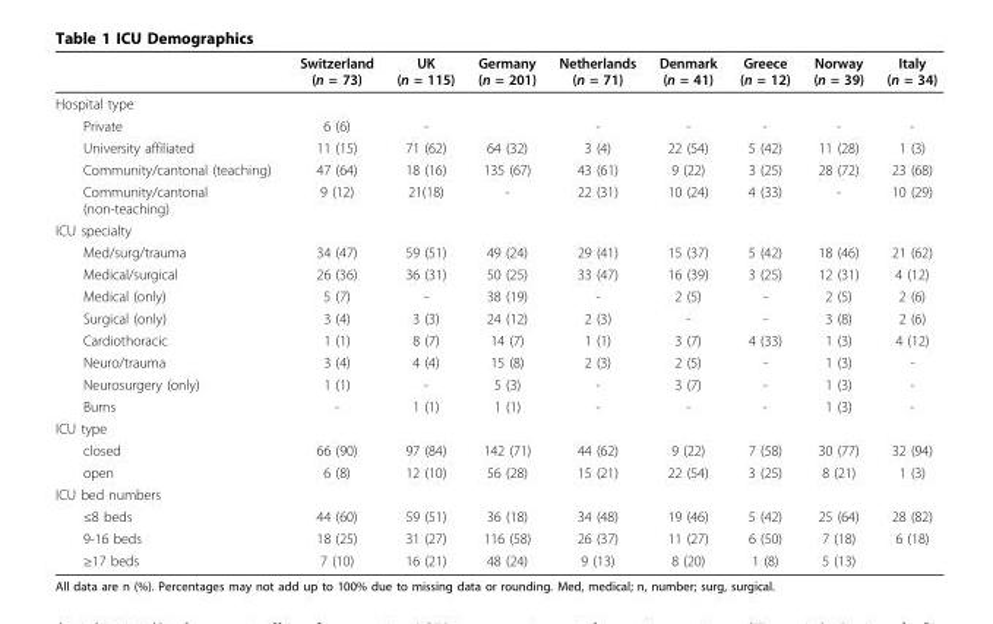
<table><thead><tr><td></td><td>Switzerland (n = 73)</td><td>UK (n = 115)</td><td>Germany (n = 201)</td><td>Netherlands (n = 71)</td><td>Denmark (n = 41)</td><td>Greece (n = 12)</td><td>Norway (n = 39)</td><td>Italy (n = 34)</td></tr></thead><tbody><tr><td colspan="9">Hospital type</td></tr><tr><td>Private</td><td>6 (6)</td><td>-</td><td></td><td>-</td><td>-</td><td>-</td><td>-</td><td>-</td></tr><tr><td>University affiliated</td><td>11 (15)</td><td>71 (62)</td><td>64 (32)</td><td>3 (4)</td><td>22 (54)</td><td>5 (42)</td><td>11 (28)</td><td>1 (3)</td></tr><tr><td>Community/cantonal (teaching)</td><td>47 (64)</td><td>18 (16)</td><td>135 (67)</td><td>43 (61)</td><td>9 (22)</td><td>3 (25)</td><td>28 (72)</td><td>23 (68)</td></tr><tr><td>Community/cantonal (non-teaching)</td><td>9 (12)</td><td>21(18)</td><td>-</td><td>22 (31)</td><td>10 (24)</td><td>4 (33)</td><td>-</td><td>10 (29)</td></tr><tr><td colspan="9">ICU specialty</td></tr><tr><td>Med/surg/trauma</td><td>34 (47)</td><td>59 (51)</td><td>49 (24)</td><td>29 (41)</td><td>15 (37)</td><td>5 (42)</td><td>18 (46)</td><td>21 (62)</td></tr><tr><td>Medical/surgical</td><td>26 (36)</td><td>36 (31)</td><td>50 (25)</td><td>33 (47)</td><td>16 (39)</td><td>3 (25)</td><td>12 (31)</td><td>4 (12)</td></tr><tr><td>Medical (only)</td><td>5 (7)</td><td>-</td><td>38 (19)</td><td>-</td><td>2 (5)</td><td>-</td><td>2 (5)</td><td>2 (6)</td></tr><tr><td>Surgical (only)</td><td>3 (4)</td><td>3 (3)</td><td>24 (12)</td><td>2 (3)</td><td>-</td><td>-</td><td>3 (8)</td><td>2 (6)</td></tr><tr><td>Cardiothoracic</td><td>1 (1)</td><td>8 (7)</td><td>14 (7)</td><td>1 (1)</td><td>3 (7)</td><td>4 (33)</td><td>1 (3)</td><td>4 (12)</td></tr><tr><td>Neuro/trauma</td><td>3 (4)</td><td>4 (4)</td><td>15 (8)</td><td>2 (3)</td><td>2 (5)</td><td>-</td><td>1 (3)</td><td>-</td></tr><tr><td>Neurosurgery (only)</td><td>1 (1)</td><td>-</td><td>5 (3)</td><td>-</td><td>3 (7)</td><td>-</td><td>1 (3)</td><td>-</td></tr><tr><td>Burns</td><td>-</td><td>1 (1)</td><td>1 (1)</td><td>-</td><td>-</td><td>-</td><td>1 (3)</td><td>-</td></tr><tr><td colspan="9">ICU type</td></tr><tr><td>closed</td><td>66 (90)</td><td>97 (84)</td><td>142 (71)</td><td>44 (62)</td><td>9 (22)</td><td>7 (58)</td><td>30 (77)</td><td>32 (94)</td></tr><tr><td>open</td><td>6 (8)</td><td>12 (10)</td><td>56 (28)</td><td>15 (21)</td><td>22 (54)</td><td>3 (25)</td><td>8 (21)</td><td>1 (3)</td></tr><tr><td colspan="9">ICU bed numbers</td></tr><tr><td>≤8 beds</td><td>44 (60)</td><td>59 (51)</td><td>36 (18)</td><td>34 (48)</td><td>19 (46)</td><td>5 (42)</td><td>25 (64)</td><td>28 (82)</td></tr><tr><td>9-16 beds</td><td>18 (25)</td><td>31 (27)</td><td>116 (58)</td><td>26 (37)</td><td>11 (27)</td><td>6 (50)</td><td>7 (18)</td><td>6 (18)</td></tr><tr><td>≥17 beds</td><td>7 (10)</td><td>16 (21)</td><td>48 (24)</td><td>9 (13)</td><td>8 (20)</td><td>1 (8)</td><td>5 (13)</td><td></td></tr></tbody></table>